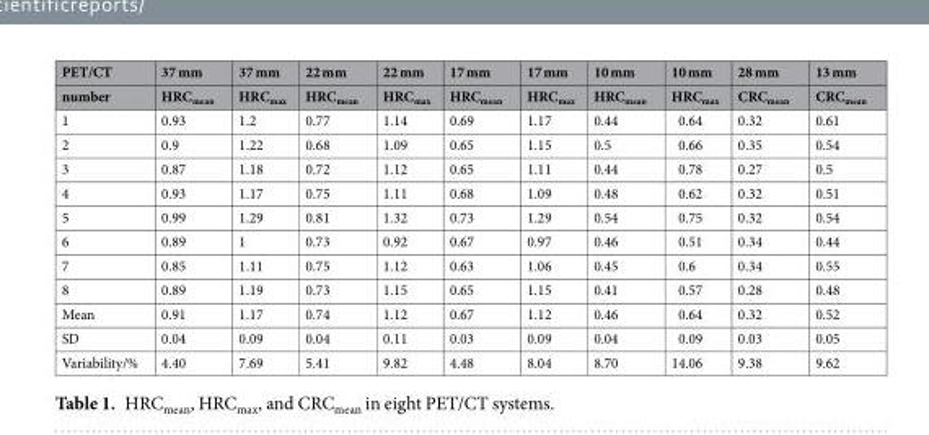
<table><thead><tr><td rowspan="2">PET/CT number</td><td rowspan="2">37 mm HRC<sub>mean</sub></td><td rowspan="2">37 mm HRC<sub>max</sub></td><td rowspan="2">22 mm HRC<sub>mean</sub></td><td rowspan="2">22 mm HRC<sub>max</sub></td><td rowspan="2">17 mm HRC<sub>mean</sub></td><td rowspan="2">17 mm HRC<sub>max</sub></td><td rowspan="2">10 mm HRC<sub>mean</sub></td><td rowspan="2">10 mm HRC<sub>max</sub></td><td rowspan="2">28 mm CRC<sub>mean</sub></td><td rowspan="2">13 mm CRC<sub>mean</sub></td></tr><tr></tr></thead><tbody><tr><td>1</td><td>0.93</td><td>1.2</td><td>0.77</td><td>1.14</td><td>0.69</td><td>1.17</td><td>0.44</td><td>0.64</td><td>0.32</td><td>0.61</td></tr><tr><td>2</td><td>0.9</td><td>1.22</td><td>0.68</td><td>1.09</td><td>0.65</td><td>1.15</td><td>0.5</td><td>0.66</td><td>0.35</td><td>0.54</td></tr><tr><td>3</td><td>0.87</td><td>1.18</td><td>0.72</td><td>1.12</td><td>0.65</td><td>1.11</td><td>0.44</td><td>0.78</td><td>0.27</td><td>0.5</td></tr><tr><td>4</td><td>0.93</td><td>1.17</td><td>0.75</td><td>1.11</td><td>0.68</td><td>1.09</td><td>0.48</td><td>0.62</td><td>0.32</td><td>0.51</td></tr><tr><td>5</td><td>0.99</td><td>1.29</td><td>0.81</td><td>1.32</td><td>0.73</td><td>1.29</td><td>0.54</td><td>0.75</td><td>0.32</td><td>0.54</td></tr><tr><td>6</td><td>0.89</td><td>1</td><td>0.73</td><td>0.92</td><td>0.67</td><td>0.97</td><td>0.46</td><td>0.51</td><td>0.34</td><td>0.44</td></tr><tr><td>7</td><td>0.85</td><td>1.11</td><td>0.75</td><td>1.12</td><td>0.63</td><td>1.06</td><td>0.45</td><td>0.6</td><td>0.34</td><td>0.55</td></tr><tr><td>8</td><td>0.89</td><td>1.19</td><td>0.73</td><td>1.15</td><td>0.65</td><td>1.15</td><td>0.41</td><td>0.57</td><td>0.28</td><td>0.48</td></tr><tr><td>Mean</td><td>0.91</td><td>1.17</td><td>0.74</td><td>1.12</td><td>0.67</td><td>1.12</td><td>0.46</td><td>0.64</td><td>0.32</td><td>0.52</td></tr><tr><td>SD</td><td>0.04</td><td>0.09</td><td>0.04</td><td>0.11</td><td>0.03</td><td>0.09</td><td>0.04</td><td>0.09</td><td>0.03</td><td>0.05</td></tr><tr><td>Variability/%</td><td>4.40</td><td>7.69</td><td>5.41</td><td>9.82</td><td>4.48</td><td>8.04</td><td>8.70</td><td>14.06</td><td>9.38</td><td>9.62</td></tr></tbody></table>